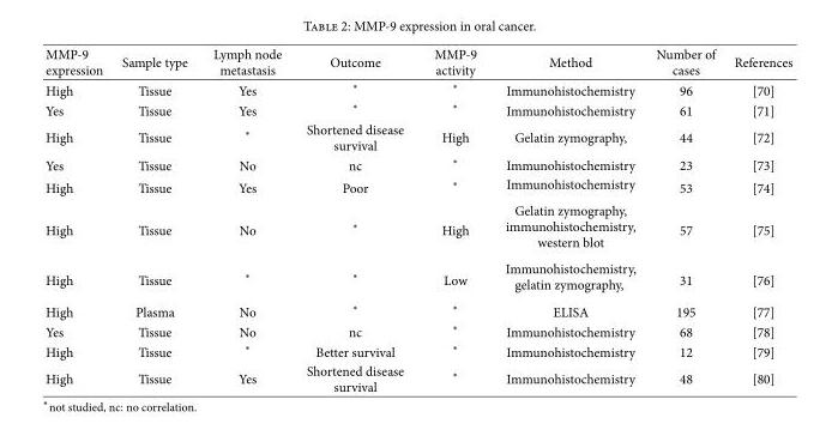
<table><thead><tr><td>MMP-9 expression</td><td>Sample type</td><td>Lymph node metastasis</td><td>Outcome</td><td>MMP-9 activity</td><td>Method</td><td>Number of cases</td><td>References</td></tr></thead><tbody><tr><td>High</td><td>Tissue</td><td>Yes</td><td>∗</td><td>∗</td><td>Immunohistochemistry</td><td>96</td><td>[70]</td></tr><tr><td>Yes</td><td>Tissue</td><td>Yes</td><td>∗</td><td>∗</td><td>Immunohistochemistry</td><td>61</td><td>[71]</td></tr><tr><td>High</td><td>Tissue</td><td>∗</td><td>Shortened disease survival</td><td>High</td><td>Gelatin zymography,</td><td>44</td><td>[72]</td></tr><tr><td>Yes</td><td>Tissue</td><td>No</td><td>nc</td><td>∗</td><td>Immunohistochemistry</td><td>23</td><td>[73]</td></tr><tr><td>High</td><td>Tissue</td><td>Yes</td><td>Poor</td><td>∗</td><td>Immunohistochemistry</td><td>53</td><td>[74]</td></tr><tr><td>High</td><td>Tissue</td><td>No</td><td>∗</td><td>High</td><td>Gelatin zymography, immunohistochemistry, western blot</td><td>57</td><td>[75]</td></tr><tr><td>High</td><td>Tissue</td><td>∗</td><td>∗</td><td>Low</td><td>Immunohistochemistry, gelatin zymography,</td><td>31</td><td>[76]</td></tr><tr><td>High</td><td>Plasma</td><td>No</td><td>∗</td><td>∗</td><td>ELISA</td><td>195</td><td>[77]</td></tr><tr><td>Yes</td><td>Tissue</td><td>No</td><td>nc</td><td>∗</td><td>Immunohistochemistry</td><td>68</td><td>[78]</td></tr><tr><td>High</td><td>Tissue</td><td>∗</td><td>Better survival</td><td>∗</td><td>Immunohistochemistry</td><td>12</td><td>[79]</td></tr><tr><td>High</td><td>Tissue</td><td>Yes</td><td>Shortened disease survival</td><td>∗</td><td>Immunohistochemistry</td><td>48</td><td>[80]</td></tr></tbody></table>